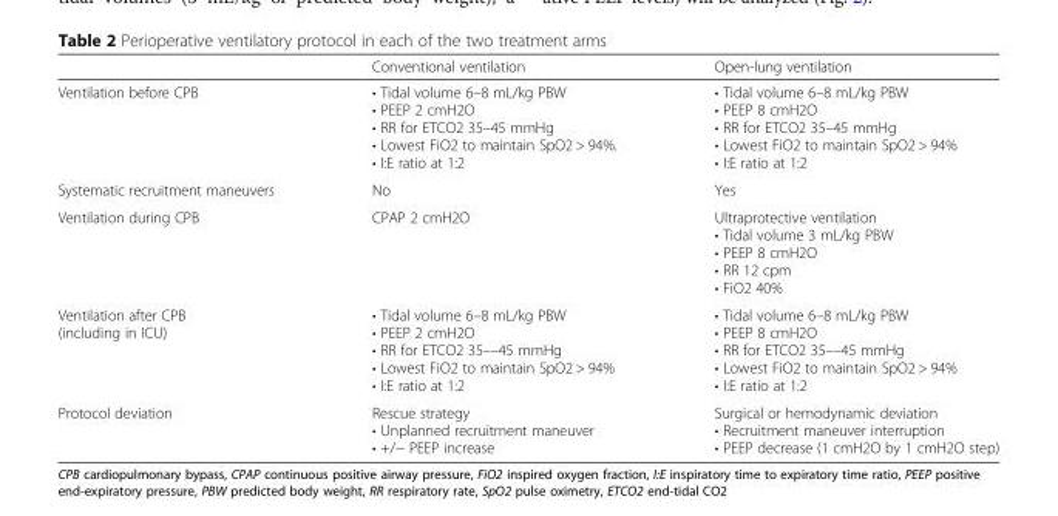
<table><thead><tr><td></td><td>Conventional ventilation</td><td>Open-lung ventilation</td></tr></thead><tbody><tr><td>Ventilation before CPB</td><td>• Tidal volume 6–8 mL/kg PBW • PEEP 2 cmH2O • RR for ETCO2 35–45 mmHg • Lowest FiO2 to maintain SpO2 &gt; 94%. • I:E ratio at 1:2</td><td>• Tidal volume 6–8 mL/kg PBW • PEEP 8 cmH2O • RR for ETCO2 35–45 mmHg • Lowest FiO2 to maintain SpO2 &gt; 94% • I:E ratio at 1:2</td></tr><tr><td>Systematic recruitment maneuvers</td><td>No</td><td>Yes</td></tr><tr><td>Ventilation during CPB</td><td>CPAP 2 cmH2O</td><td>Ultraprotective ventilation • Tidal volume 3 mL/kg PBW • PEEP 8 cmH2O • RR 12 cpm • FiO2 40%</td></tr><tr><td>Ventilation after CPB (including in ICU)</td><td>• Tidal volume 6–8 mL/kg PBW • PEEP 2 cmH2O • RR for ETCO2 35––45 mmHg • Lowest FiO2 to maintain SpO2 &gt; 94% • I:E ratio at 1:2</td><td>• Tidal volume 6–8 mL/kg PBW • PEEP 8 cmH2O • RR for ETCO2 35––45 mmHg • Lowest FiO2 to maintain SpO2 &gt; 94% • I:E ratio at 1:2</td></tr><tr><td>Protocol deviation</td><td>Rescue strategy • Unplanned recruitment maneuver • +/− PEEP increase</td><td>Surgical or hemodynamic deviation • Recruitment maneuver interruption • PEEP decrease (1 cmH2O by 1 cmH2O step)</td></tr></tbody></table>